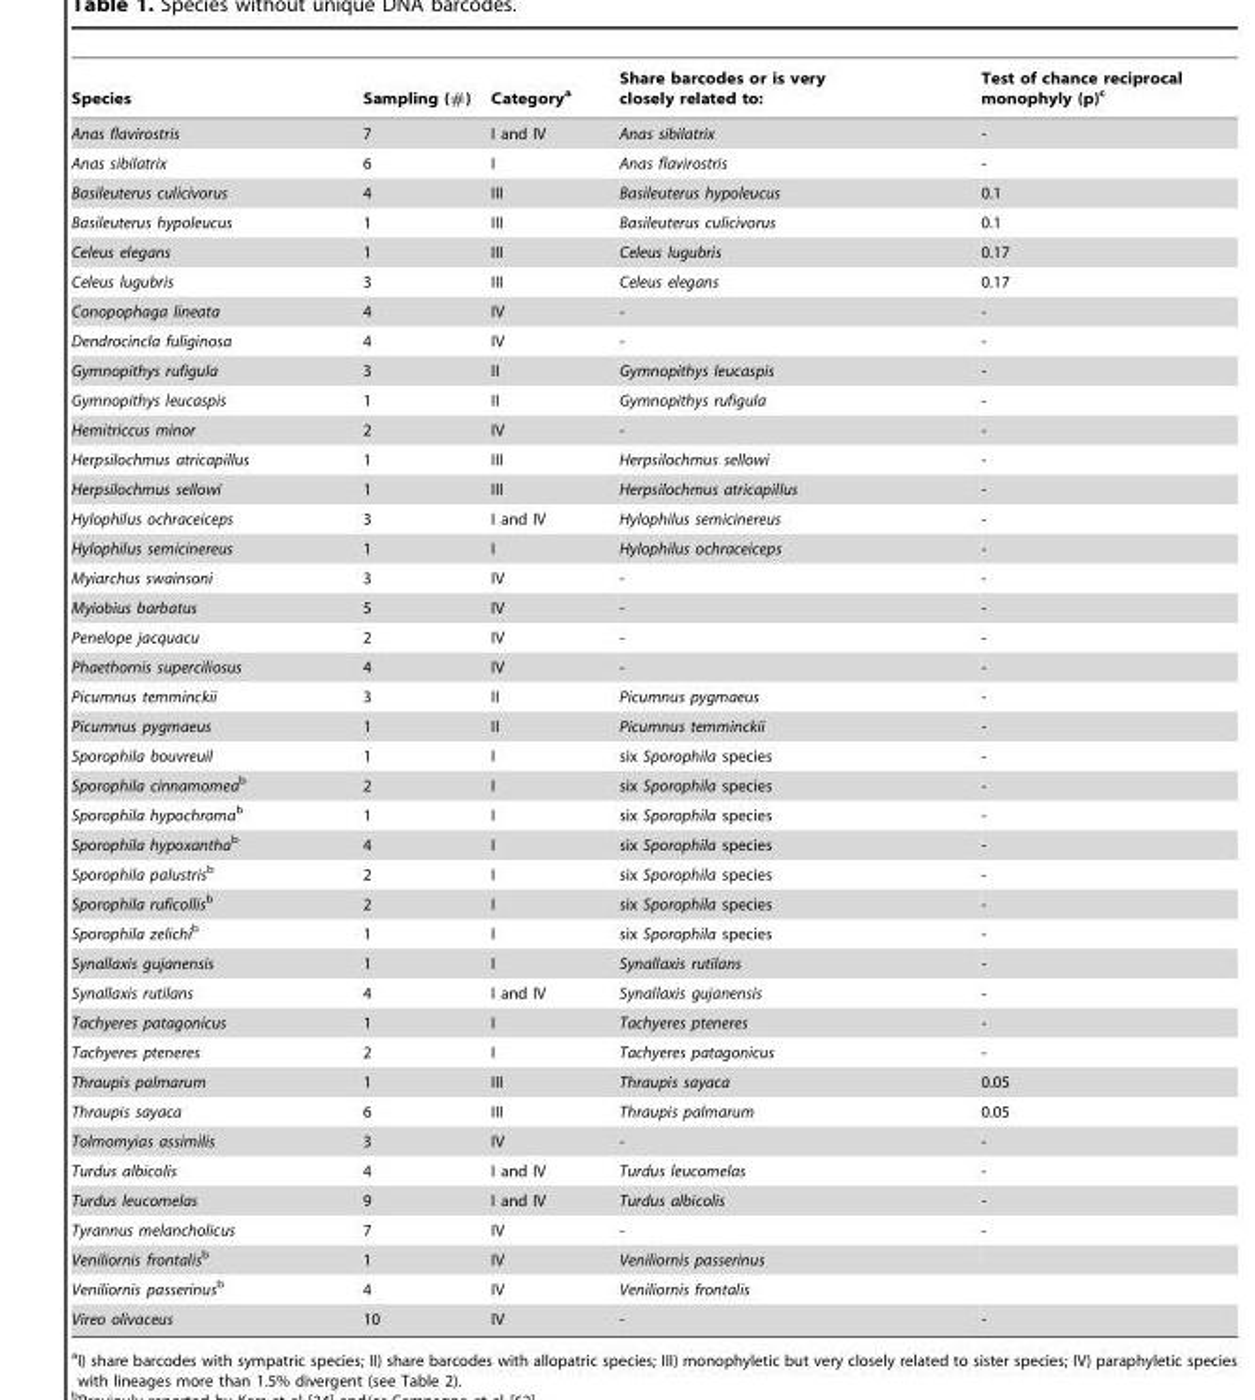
<table><thead><tr><td>Species</td><td>Sampling (#)</td><td>Category<sup>a</sup></td><td>Share barcodes or is very closely related to:</td><td>Test of chance reciprocal monophyly (p)<sup>c</sup></td></tr></thead><tbody><tr><td>Anas flavirostris</td><td>7</td><td>I and IV</td><td>Anas sibilatrix</td><td>-</td></tr><tr><td>Anas sibilatrix</td><td>6</td><td>I</td><td>Anas flavirostris</td><td>-</td></tr><tr><td>Basileuterus culicivorus</td><td>4</td><td>III</td><td>Basileuterus hypoleucus</td><td>0.1</td></tr><tr><td>Basileuterus hypoleucus</td><td>1</td><td>III</td><td>Basileuterus culicivorus</td><td>0.1</td></tr><tr><td>Celeus elegans</td><td>1</td><td>III</td><td>Celeus lugubris</td><td>0.17</td></tr><tr><td>Celeus lugubris</td><td>3</td><td>III</td><td>Celeus elegans</td><td>0.17</td></tr><tr><td>Conopophaga lineata</td><td>4</td><td>IV</td><td>-</td><td>-</td></tr><tr><td>Dendrocincla fuliginosa</td><td>4</td><td>IV</td><td>-</td><td>-</td></tr><tr><td>Gymnopithys rufigula</td><td>3</td><td>II</td><td>Gymnopithys leucaspis</td><td>-</td></tr><tr><td>Gymnopithys leucaspis</td><td>1</td><td>II</td><td>Gymnopithys rufigula</td><td>-</td></tr><tr><td>Hemitriccus minor</td><td>2</td><td>IV</td><td>-</td><td>-</td></tr><tr><td>Herpsilochmus atricapillus</td><td>1</td><td>III</td><td>Herpsilochmus sellowi</td><td>-</td></tr><tr><td>Herpsilochmus sellowi</td><td>1</td><td>III</td><td>Herpsilochmus atricapillus</td><td>-</td></tr><tr><td>Hylophilus ochraceiceps</td><td>3</td><td>I and IV</td><td>Hylophilus semicinereus</td><td>-</td></tr><tr><td>Hylophilus semicinereus</td><td>1</td><td>I</td><td>Hylophilus ochraceiceps</td><td>-</td></tr><tr><td>Myiarchus swainsoni</td><td>3</td><td>IV</td><td>-</td><td>-</td></tr><tr><td>Myiobius barbatus</td><td>5</td><td>IV</td><td>-</td><td>-</td></tr><tr><td>Penelope jacquacu</td><td>2</td><td>IV</td><td>-</td><td>-</td></tr><tr><td>Phaethornis superciliosus</td><td>4</td><td>IV</td><td>-</td><td>-</td></tr><tr><td>Picumnus temminckii</td><td>3</td><td>II</td><td>Picumnus pygmaeus</td><td>-</td></tr><tr><td>Picumnus pygmaeus</td><td>1</td><td>II</td><td>Picumnus temminckii</td><td>-</td></tr><tr><td>Sporophila bouvreuil</td><td>1</td><td>I</td><td>six Sporophila species</td><td>-</td></tr><tr><td>Sporophila cinnamomeab</td><td>2</td><td>I</td><td>six Sporophila species</td><td>-</td></tr><tr><td>Sporophila hypochromab</td><td>1</td><td>I</td><td>six Sporophila species</td><td>-</td></tr><tr><td>Sporophila hypoxanthab</td><td>4</td><td>I</td><td>six Sporophila species</td><td>-</td></tr><tr><td>Sporophila palustrisb</td><td>2</td><td>I</td><td>six Sporophila species</td><td>-</td></tr><tr><td>Sporophila ruficollisb</td><td>2</td><td>I</td><td>six Sporophila species</td><td>-</td></tr><tr><td>Sporophila zelichib</td><td>1</td><td>I</td><td>six Sporophila species</td><td>-</td></tr><tr><td>Synallaxis gujanensis</td><td>1</td><td>I</td><td>Synallaxis rutilans</td><td>-</td></tr><tr><td>Synallaxis rutilans</td><td>4</td><td>I and IV</td><td>Synallaxis gujanensis</td><td>-</td></tr><tr><td>Tachyeres patagonicus</td><td>1</td><td>I</td><td>Tachyeres pteneres</td><td>-</td></tr><tr><td>Tachyeres pteneres</td><td>2</td><td>I</td><td>Tachyeres patagonicus</td><td>-</td></tr><tr><td>Thraupis palmarum</td><td>1</td><td>III</td><td>Thraupis sayaca</td><td>0.05</td></tr><tr><td>Thraupis sayaca</td><td>6</td><td>III</td><td>Thraupis palmarum</td><td>0.05</td></tr><tr><td>Tolmomyias assimilis</td><td>3</td><td>IV</td><td>-</td><td>-</td></tr><tr><td>Turdus albicolis</td><td>4</td><td>I and IV</td><td>Turdus leucomelas</td><td>-</td></tr><tr><td>Turdus leucomelas</td><td>9</td><td>I and IV</td><td>Turdus albicolis</td><td>-</td></tr><tr><td>Tyrannus melancholicus</td><td>7</td><td>IV</td><td>-</td><td>-</td></tr><tr><td>Veniliornis frontalisb</td><td>1</td><td>IV</td><td>Veniliornis passerinus</td><td></td></tr><tr><td>Veniliornis passerinusb</td><td>4</td><td>IV</td><td>Veniliornis frontalis</td><td></td></tr><tr><td>Vireo olivaceus</td><td>10</td><td>IV</td><td>-</td><td>-</td></tr></tbody></table>